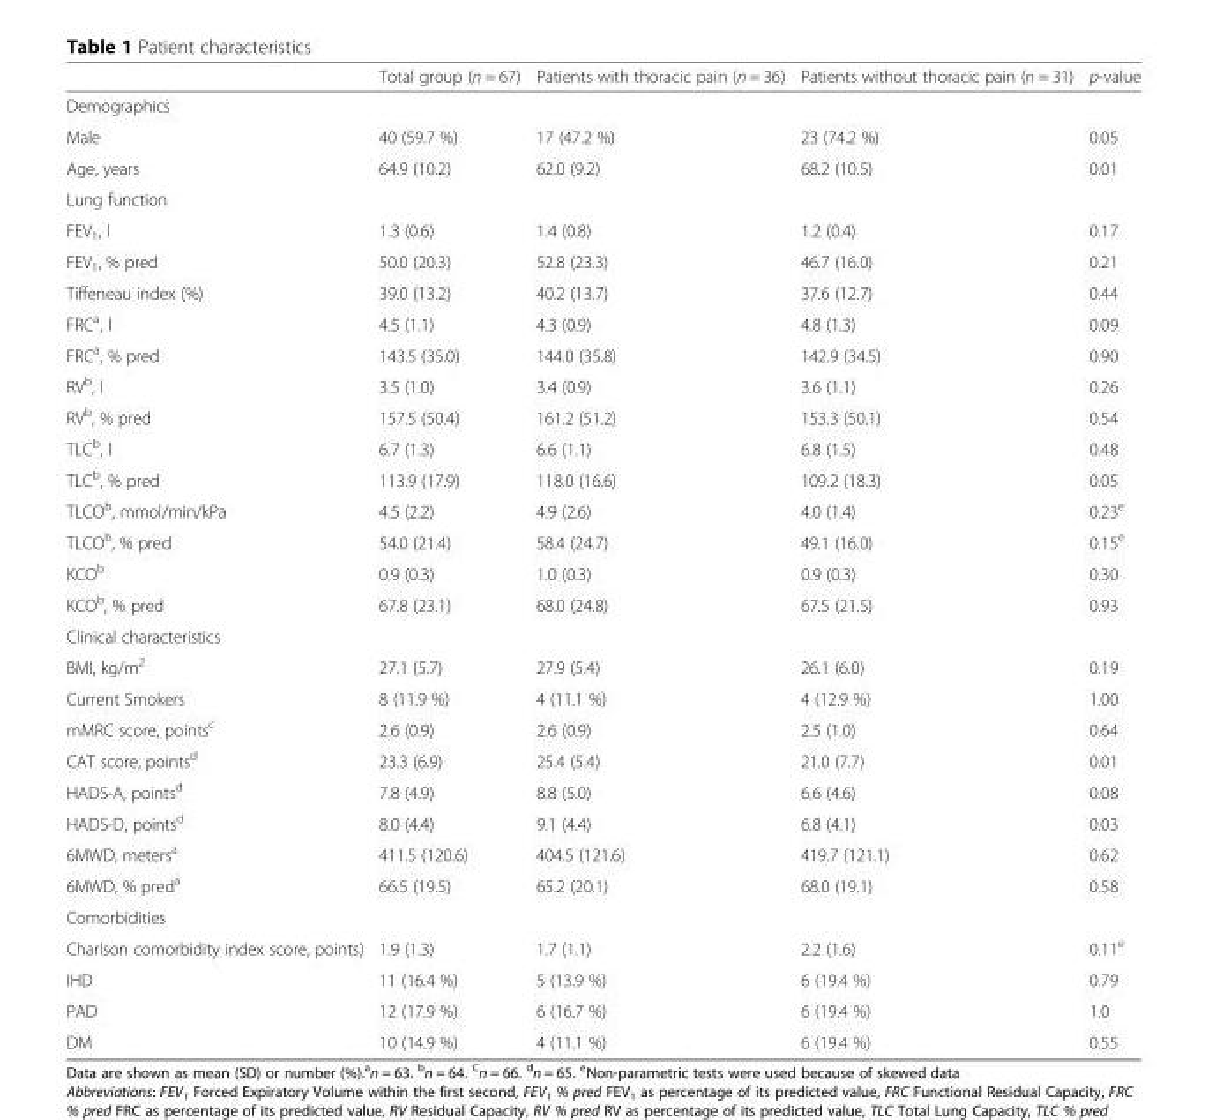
<table><thead><tr><td></td><td>Total group (n = 67)</td><td>Patients with thoracic pain (n = 36)</td><td>Patients without thoracic pain (n = 31)</td><td>p-value</td></tr></thead><tbody><tr><td colspan="5">Demographics</td></tr><tr><td>Male</td><td>40 (59.7 %)</td><td>17 (47.2 %)</td><td>23 (74.2 %)</td><td>0.05</td></tr><tr><td>Age, years</td><td>64.9 (10.2)</td><td>62.0 (9.2)</td><td>68.2 (10.5)</td><td>0.01</td></tr><tr><td colspan="5">Lung function</td></tr><tr><td>FEV<sub>1</sub>, l</td><td>1.3 (0.6)</td><td>1.4 (0.8)</td><td>1.2 (0.4)</td><td>0.17</td></tr><tr><td>FEV<sub>1</sub>, % pred</td><td>50.0 (20.3)</td><td>52.8 (23.3)</td><td>46.7 (16.0)</td><td>0.21</td></tr><tr><td>Tiffeneau index (%)</td><td>39.0 (13.2)</td><td>40.2 (13.7)</td><td>37.6 (12.7)</td><td>0.44</td></tr><tr><td>FRC<sup>a</sup>, l</td><td>4.5 (1.1)</td><td>4.3 (0.9)</td><td>4.8 (1.3)</td><td>0.09</td></tr><tr><td>FRC<sup>a</sup>, % pred</td><td>143.5 (35.0)</td><td>144.0 (35.8)</td><td>142.9 (34.5)</td><td>0.90</td></tr><tr><td>RV<sup>b</sup>, l</td><td>3.5 (1.0)</td><td>3.4 (0.9)</td><td>3.6 (1.1)</td><td>0.26</td></tr><tr><td>RV<sup>b</sup>, % pred</td><td>157.5 (50.4)</td><td>161.2 (51.2)</td><td>153.3 (50.1)</td><td>0.54</td></tr><tr><td>TLC<sup>b</sup>, l</td><td>6.7 (1.3)</td><td>6.6 (1.1)</td><td>6.8 (1.5)</td><td>0.48</td></tr><tr><td>TLC<sup>b</sup>, % pred</td><td>113.9 (17.9)</td><td>118.0 (16.6)</td><td>109.2 (18.3)</td><td>0.05</td></tr><tr><td>TLCO<sup>b</sup>, mmol/min/kPa</td><td>4.5 (2.2)</td><td>4.9 (2.6)</td><td>4.0 (1.4)</td><td>0.23<sup>e</sup></td></tr><tr><td>TLCO<sup>b</sup>, % pred</td><td>54.0 (21.4)</td><td>58.4 (24.7)</td><td>49.1 (16.0)</td><td>0.15<sup>e</sup></td></tr><tr><td>KCO<sup>b</sup></td><td>0.9 (0.3)</td><td>1.0 (0.3)</td><td>0.9 (0.3)</td><td>0.30</td></tr><tr><td>KCO<sup>b</sup>, % pred</td><td>67.8 (23.1)</td><td>68.0 (24.8)</td><td>67.5 (21.5)</td><td>0.93</td></tr><tr><td colspan="5">Clinical characteristics</td></tr><tr><td>BMI, kg/m<sup>2</sup></td><td>27.1 (5.7)</td><td>27.9 (5.4)</td><td>26.1 (6.0)</td><td>0.19</td></tr><tr><td>Current Smokers</td><td>8 (11.9 %)</td><td>4 (11.1 %)</td><td>4 (12.9 %)</td><td>1.00</td></tr><tr><td>mMRC score, points<sup>c</sup></td><td>2.6 (0.9)</td><td>2.6 (0.9)</td><td>2.5 (1.0)</td><td>0.64</td></tr><tr><td>CAT score, points<sup>d</sup></td><td>23.3 (6.9)</td><td>25.4 (5.4)</td><td>21.0 (7.7)</td><td>0.01</td></tr><tr><td>HADS-A, points<sup>d</sup></td><td>7.8 (4.9)</td><td>8.8 (5.0)</td><td>6.6 (4.6)</td><td>0.08</td></tr><tr><td>HADS-D, points<sup>d</sup></td><td>8.0 (4.4)</td><td>9.1 (4.4)</td><td>6.8 (4.1)</td><td>0.03</td></tr><tr><td>6MWD, meters<sup>a</sup></td><td>411.5 (120.6)</td><td>404.5 (121.6)</td><td>419.7 (121.1)</td><td>0.62</td></tr><tr><td>6MWD, % pred<sup>a</sup></td><td>66.5 (19.5)</td><td>65.2 (20.1)</td><td>68.0 (19.1)</td><td>0.58</td></tr><tr><td colspan="5">Comorbidities</td></tr><tr><td>Charlson comorbidity index score, points)</td><td>1.9 (1.3)</td><td>1.7 (1.1)</td><td>2.2 (1.6)</td><td>0.11<sup>e</sup></td></tr><tr><td>IHD</td><td>11 (16.4 %)</td><td>5 (13.9 %)</td><td>6 (19.4 %)</td><td>0.79</td></tr><tr><td>PAD</td><td>12 (17.9 %)</td><td>6 (16.7 %)</td><td>6 (19.4 %)</td><td>1.0</td></tr><tr><td>DM</td><td>10 (14.9 %)</td><td>4 (11.1 %)</td><td>6 (19.4 %)</td><td>0.55</td></tr></tbody></table>